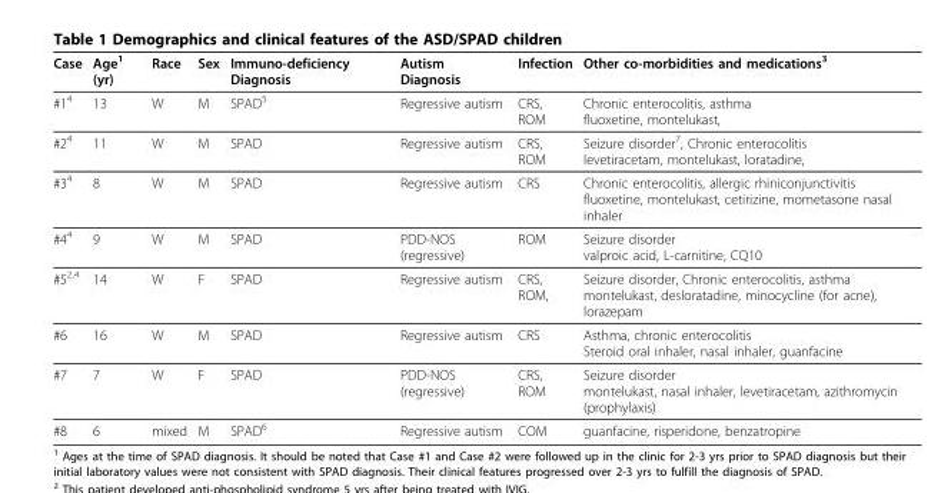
<table><thead><tr><td>Case</td><td>Age<sup>1</sup> (yr)</td><td>Race</td><td>Sex</td><td>Immuno-deficiency Diagnosis</td><td>Autism Diagnosis</td><td>Infection</td><td>Other co-morbidities and medications<sup>3</sup></td></tr></thead><tbody><tr><td>#1<sup>4</sup></td><td>13</td><td>W</td><td>M</td><td>SPAD<sup>5</sup></td><td>Regressive autism</td><td>CRS, ROM</td><td>Chronic enterocolitis, asthma fluoxetine, montelukast,</td></tr><tr><td>#2<sup>4</sup></td><td>11</td><td>W</td><td>M</td><td>SPAD</td><td>Regressive autism</td><td>CRS, ROM</td><td>Seizure disorder<sup>7</sup>, Chronic enterocolitis levetiracetam, montelukast, loratadine,</td></tr><tr><td>#3<sup>4</sup></td><td>8</td><td>W</td><td>M</td><td>SPAD</td><td>Regressive autism</td><td>CRS</td><td>Chronic enterocolitis, allergic rhiniconjunctivitis fluoxetine, montelukast, cetirizine, mometasone nasal inhaler</td></tr><tr><td>#4<sup>4</sup></td><td>9</td><td>W</td><td>M</td><td>SPAD</td><td>PDD-NOS (regressive)</td><td>ROM</td><td>Seizure disorder valproic acid, L-carnitine, CQ10</td></tr><tr><td>#5<sup>2,4</sup></td><td>14</td><td>W</td><td>F</td><td>SPAD</td><td>Regressive autism</td><td>CRS, ROM,</td><td>Seizure disorder, Chronic enterocolitis, asthma montelukast, desloratadine, minocycline (for acne), lorazepam</td></tr><tr><td>#6</td><td>16</td><td>W</td><td>M</td><td>SPAD</td><td>Regressive autism</td><td>CRS</td><td>Asthma, chronic enterocolitis Steroid oral inhaler, nasal inhaler, guanfacine</td></tr><tr><td>#7</td><td>7</td><td>W</td><td>F</td><td>SPAD</td><td>PDD-NOS (regressive)</td><td>CRS, ROM</td><td>Seizure disorder montelukast, nasal inhaler, levetiracetam, azithromycin (prophylaxis)</td></tr><tr><td>#8</td><td>6</td><td>mixed</td><td>M</td><td>SPAD<sup>6</sup></td><td>Regressive autism</td><td>COM</td><td>guanfacine, risperidone, benzatropine</td></tr></tbody></table>